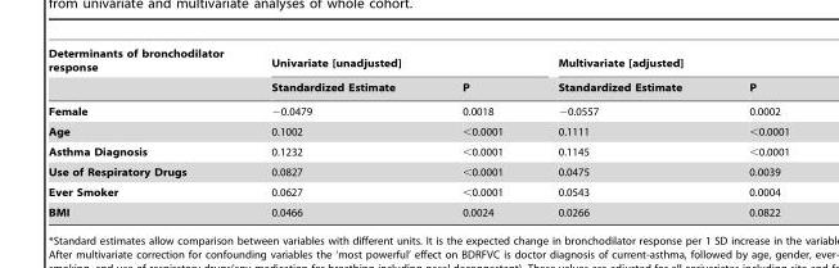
<table><thead><tr><td rowspan="2">Determinants of bronchodilator response</td><td colspan="2">Univariate [unadjusted]</td><td colspan="2">Multivariate [adjusted]</td></tr><tr><td>Standardized Estimate</td><td>P</td><td>Standardized Estimate</td><td>P</td></tr></thead><tbody><tr><td>Female</td><td>−0.0479</td><td>0.0018</td><td>−0.0557</td><td>0.0002</td></tr><tr><td>Age</td><td>0.1002</td><td>&lt;0.0001</td><td>0.1111</td><td>&lt;0.0001</td></tr><tr><td>Asthma Diagnosis</td><td>0.1232</td><td>&lt;0.0001</td><td>0.1145</td><td>&lt;0.0001</td></tr><tr><td>Use of Respiratory Drugs</td><td>0.0827</td><td>&lt;0.0001</td><td>0.0475</td><td>0.0039</td></tr><tr><td>Ever Smoker</td><td>0.0627</td><td>&lt;0.0001</td><td>0.0543</td><td>0.0004</td></tr><tr><td>BMI</td><td>0.0466</td><td>0.0024</td><td>0.0266</td><td>0.0822</td></tr></tbody></table>